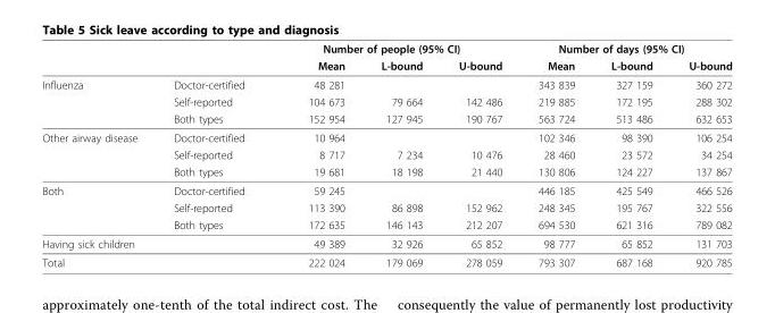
<table><thead><tr><td rowspan="2"></td><td rowspan="2"></td><td colspan="3">Number of people (95% CI)</td><td colspan="3">Number of days (95% CI)</td></tr><tr><td>Mean</td><td>L-bound</td><td>U-bound</td><td>Mean</td><td>L-bound</td><td>U-bound</td></tr></thead><tbody><tr><td rowspan="3">Influenza</td><td>Doctor-certified</td><td>48 281</td><td></td><td></td><td>343 839</td><td>327 159</td><td>360 272</td></tr><tr><td>Self-reported</td><td>104 673</td><td>79 664</td><td>142 486</td><td>219 885</td><td>172 195</td><td>288 302</td></tr><tr><td>Both types</td><td>152 954</td><td>127 945</td><td>190 767</td><td>563 724</td><td>513 486</td><td>632 653</td></tr><tr><td rowspan="3">Other airway disease</td><td>Doctor-certified</td><td>10 964</td><td></td><td></td><td>102 346</td><td>98 390</td><td>106 254</td></tr><tr><td>Self-reported</td><td>8 717</td><td>7 234</td><td>10 476</td><td>28 460</td><td>23 572</td><td>34 254</td></tr><tr><td>Both types</td><td>19 681</td><td>18 198</td><td>21 440</td><td>130 806</td><td>124 227</td><td>137 867</td></tr><tr><td rowspan="3">Both</td><td>Doctor-certified</td><td>59 245</td><td></td><td></td><td>446 185</td><td>425 549</td><td>466 526</td></tr><tr><td>Self-reported</td><td>113 390</td><td>86 898</td><td>152 962</td><td>248 345</td><td>195 767</td><td>322 556</td></tr><tr><td>Both types</td><td>172 635</td><td>146 143</td><td>212 207</td><td>694 530</td><td>621 316</td><td>789 082</td></tr><tr><td>Having sick children</td><td></td><td>49 389</td><td>32 926</td><td>65 852</td><td>98 777</td><td>65 852</td><td>131 703</td></tr><tr><td>Total</td><td></td><td>222 024</td><td>179 069</td><td>278 059</td><td>793 307</td><td>687 168</td><td>920 785</td></tr></tbody></table>